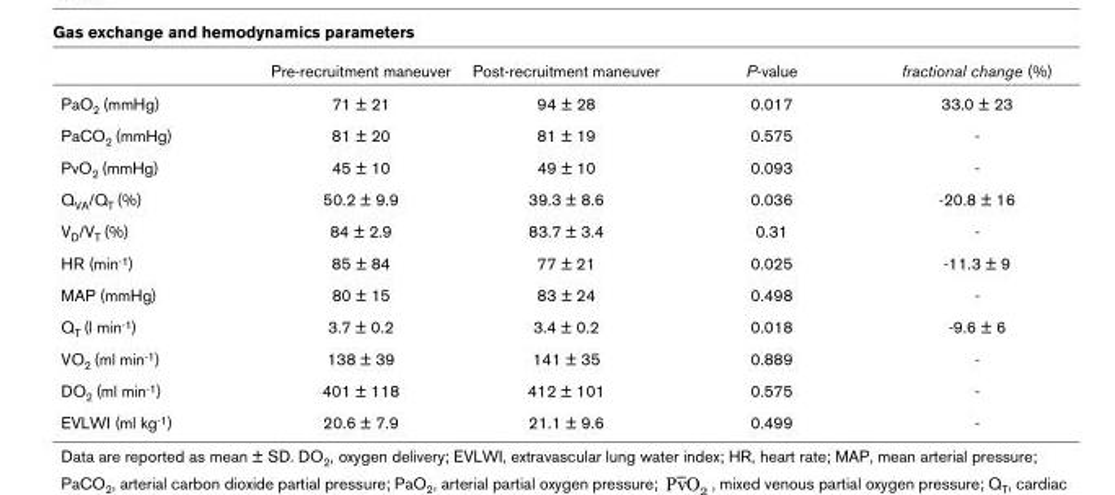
<table><thead><tr><td></td><td>Pre-recruitment maneuver</td><td>Post-recruitment maneuver</td><td>P-value</td><td>fractional change (%)</td></tr></thead><tbody><tr><td>PaO2 (mmHg)</td><td>71 ± 21</td><td>94 ± 28</td><td>0.017</td><td>33.0 ± 23</td></tr><tr><td>PaCO2 (mmHg)</td><td>81 ± 20</td><td>81 ± 19</td><td>0.575</td><td>-</td></tr><tr><td>PvO2 (mmHg)</td><td>45 ± 10</td><td>49 ± 10</td><td>0.093</td><td>-</td></tr><tr><td>QVA/QT (%)</td><td>50.2 ± 9.9</td><td>39.3 ± 8.6</td><td>0.036</td><td>-20.8 ± 16</td></tr><tr><td>VD/VT (%)</td><td>84 ± 2.9</td><td>83.7 ± 3.4</td><td>0.31</td><td>-</td></tr><tr><td>HR (min-1)</td><td>85 ± 84</td><td>77 ± 21</td><td>0.025</td><td>-11.3 ± 9</td></tr><tr><td>MAP (mmHg)</td><td>80 ± 15</td><td>83 ± 24</td><td>0.498</td><td>-</td></tr><tr><td>QT (l min-1)</td><td>3.7 ± 0.2</td><td>3.4 ± 0.2</td><td>0.018</td><td>-9.6 ± 6</td></tr><tr><td>VO2 (ml min-1)</td><td>138 ± 39</td><td>141 ± 35</td><td>0.889</td><td>-</td></tr><tr><td>DO2 (ml min-1)</td><td>401 ± 118</td><td>412 ± 101</td><td>0.575</td><td>-</td></tr><tr><td>EVLWI (ml kg-1)</td><td>20.6 ± 7.9</td><td>21.1 ± 9.6</td><td>0.499</td><td>-</td></tr></tbody></table>